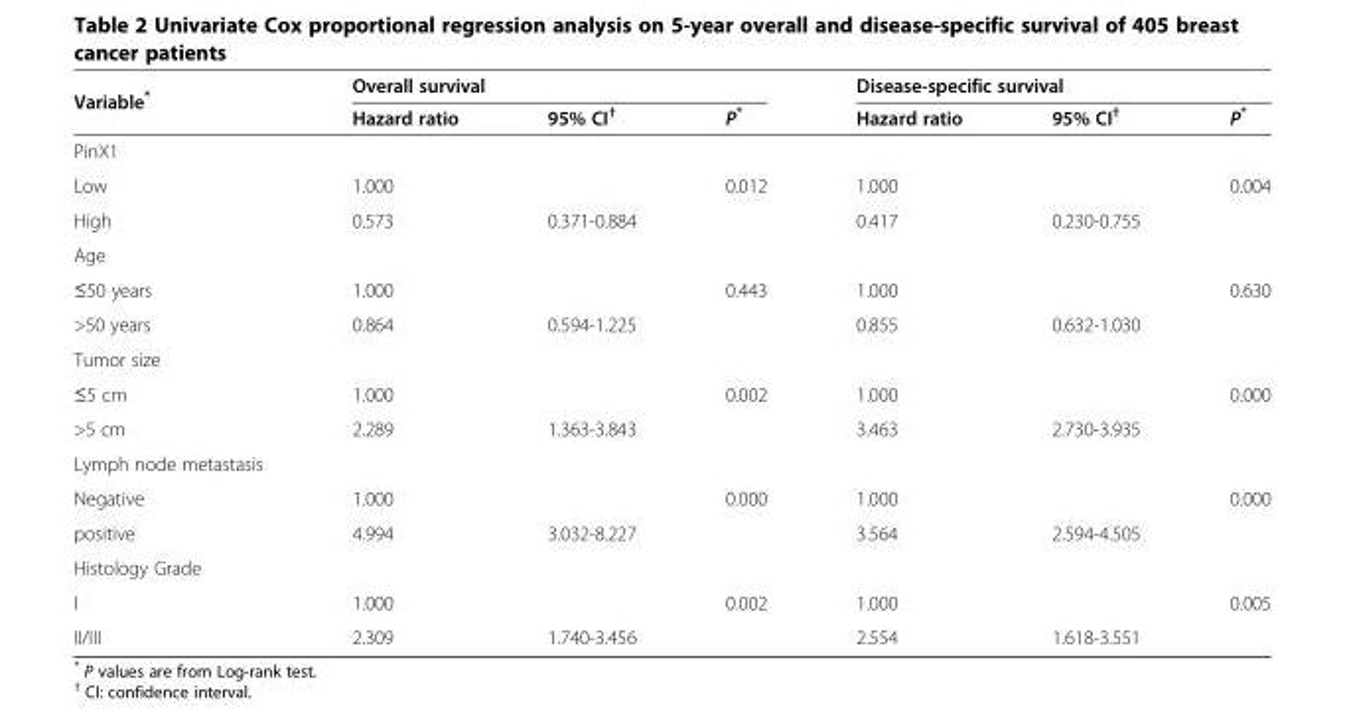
<table><thead><tr><td rowspan="2">Variable*</td><td colspan="3">Overall survival</td><td colspan="3">Disease-specific survival</td></tr><tr><td>Hazard ratio</td><td>95% CI<sup>†</sup></td><td>P*</td><td>Hazard ratio</td><td>95% CI<sup>†</sup></td><td>P*</td></tr></thead><tbody><tr><td colspan="7">PinX1</td></tr><tr><td>Low</td><td>1.000</td><td></td><td>0.012</td><td>1.000</td><td></td><td>0.004</td></tr><tr><td>High</td><td>0.573</td><td>0.371-0.884</td><td></td><td>0.417</td><td>0.230-0.755</td><td></td></tr><tr><td colspan="7">Age</td></tr><tr><td>≤50 years</td><td>1.000</td><td></td><td>0.443</td><td>1.000</td><td></td><td>0.630</td></tr><tr><td>&gt;50 years</td><td>0.864</td><td>0.594-1.225</td><td></td><td>0.855</td><td>0.632-1.030</td><td></td></tr><tr><td colspan="7">Tumor size</td></tr><tr><td>≤5 cm</td><td>1.000</td><td></td><td>0.002</td><td>1.000</td><td></td><td>0.000</td></tr><tr><td>&gt;5 cm</td><td>2.289</td><td>1.363-3.843</td><td></td><td>3.463</td><td>2.730-3.935</td><td></td></tr><tr><td colspan="7">Lymph node metastasis</td></tr><tr><td>Negative</td><td>1.000</td><td></td><td>0.000</td><td>1.000</td><td></td><td>0.000</td></tr><tr><td>positive</td><td>4.994</td><td>3.032-8.227</td><td></td><td>3.564</td><td>2.594-4.505</td><td></td></tr><tr><td colspan="7">Histology Grade</td></tr><tr><td>I</td><td>1.000</td><td></td><td>0.002</td><td>1.000</td><td></td><td>0.005</td></tr><tr><td>II/III</td><td>2.309</td><td>1.740-3.456</td><td></td><td>2.554</td><td>1.618-3.551</td><td></td></tr></tbody></table>